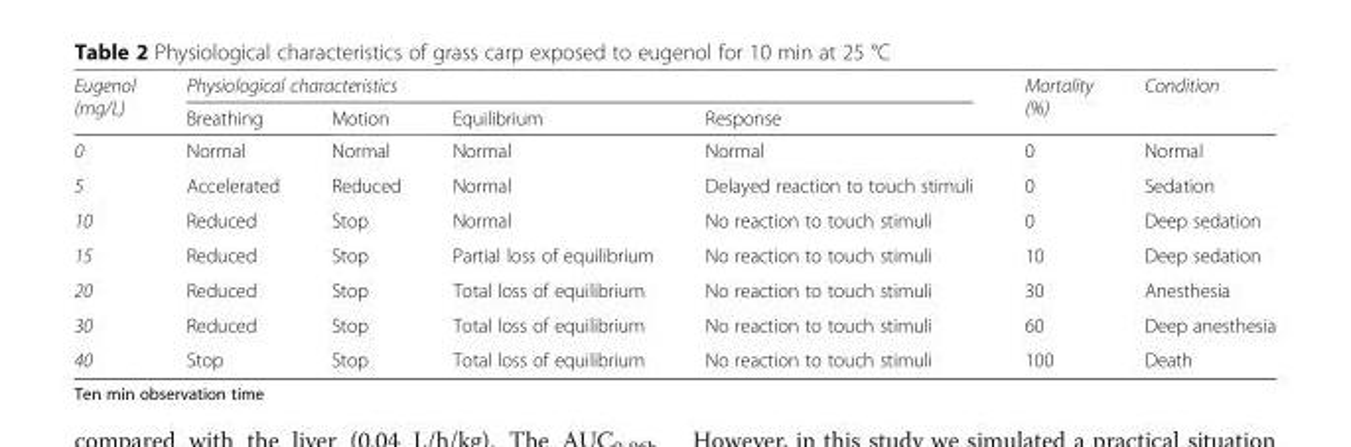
<table><thead><tr><td rowspan="2">Eugenol (mg/L)</td><td colspan="4">Physiological characteristics</td><td rowspan="2">Mortality (%)</td><td rowspan="2">Condition</td></tr><tr><td>Breathing</td><td>Motion</td><td>Equilibrium</td><td>Response</td></tr></thead><tbody><tr><td>0</td><td>Normal</td><td>Normal</td><td>Normal</td><td>Normal</td><td>0</td><td>Normal</td></tr><tr><td>5</td><td>Accelerated</td><td>Reduced</td><td>Normal</td><td>Delayed reaction to touch stimuli</td><td>0</td><td>Sedation</td></tr><tr><td>10</td><td>Reduced</td><td>Stop</td><td>Normal</td><td>No reaction to touch stimuli</td><td>0</td><td>Deep sedation</td></tr><tr><td>15</td><td>Reduced</td><td>Stop</td><td>Partial loss of equilibrium</td><td>No reaction to touch stimuli</td><td>10</td><td>Deep sedation</td></tr><tr><td>20</td><td>Reduced</td><td>Stop</td><td>Total loss of equilibrium</td><td>No reaction to touch stimuli</td><td>30</td><td>Anesthesia</td></tr><tr><td>30</td><td>Reduced</td><td>Stop</td><td>Total loss of equilibrium</td><td>No reaction to touch stimuli</td><td>60</td><td>Deep anesthesia</td></tr><tr><td>40</td><td>Stop</td><td>Stop</td><td>Total loss of equilibrium</td><td>No reaction to touch stimuli</td><td>100</td><td>Death</td></tr></tbody></table>